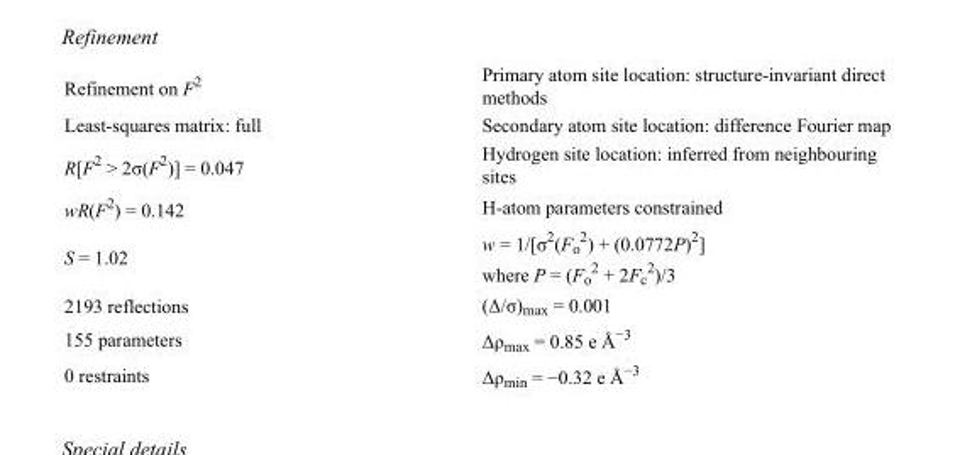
<table><tbody><tr><td>Refinement on F<sup>2</sup></td><td>Primary atom site location: structure-invariant direct methods</td></tr><tr><td>Least-squares matrix: full</td><td>Secondary atom site location: difference Fourier map</td></tr><tr><td>R[F<sup>2</sup> &gt; 2σ(F<sup>2</sup>)] = 0.047</td><td>Hydrogen site location: inferred from neighbouring sites</td></tr><tr><td>wR(F<sup>2</sup>) = 0.142</td><td>H-atom parameters constrained</td></tr><tr><td>S = 1.02</td><td>w = 1/[σ<sup>2</sup>(F<sub>o</sub> <sup>2</sup>) + (0.0772P)<sup>2</sup>] where P = (F<sub>o</sub> <sup>2</sup> + 2F<sub>c</sub> <sup>2</sup>)/3</td></tr><tr><td>2193 reflections</td><td>(Δ/σ)<sub>max</sub> = 0.001</td></tr><tr><td>155 parameters</td><td>Δρ<sub>max</sub> = 0.85 e Å<sup>−3</sup></td></tr><tr><td>0 restraints</td><td>Δρ<sub>min</sub> = −0.32 e Å<sup>−3</sup></td></tr></tbody></table>